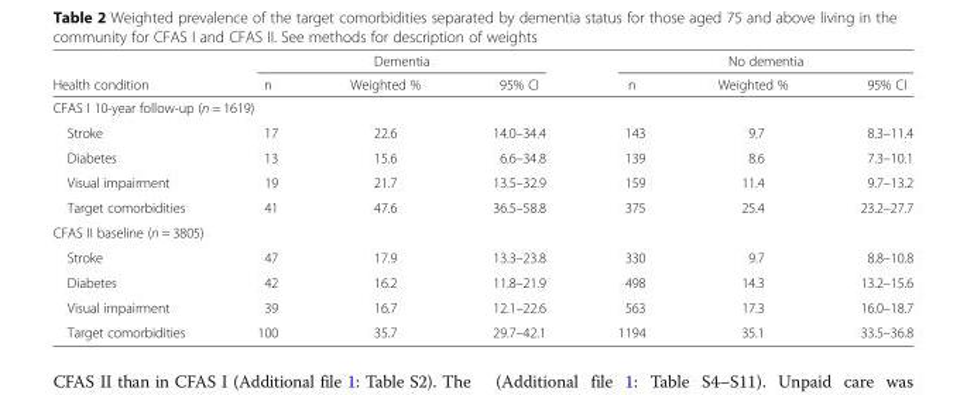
<table><thead><tr><td rowspan="2">Health condition</td><td colspan="3">Dementia</td><td colspan="3">No dementia</td></tr><tr><td>n</td><td>Weighted %</td><td>95% CI</td><td>n</td><td>Weighted %</td><td>95% CI</td></tr></thead><tbody><tr><td colspan="7">CFAS I 10-year follow-up (n = 1619)</td></tr><tr><td>Stroke</td><td>17</td><td>22.6</td><td>14.0–34.4</td><td>143</td><td>9.7</td><td>8.3–11.4</td></tr><tr><td>Diabetes</td><td>13</td><td>15.6</td><td>6.6–34.8</td><td>139</td><td>8.6</td><td>7.3–10.1</td></tr><tr><td>Visual impairment</td><td>19</td><td>21.7</td><td>13.5–32.9</td><td>159</td><td>11.4</td><td>9.7–13.2</td></tr><tr><td>Target comorbidities</td><td>41</td><td>47.6</td><td>36.5–58.8</td><td>375</td><td>25.4</td><td>23.2–27.7</td></tr><tr><td colspan="7">CFAS II baseline (n = 3805)</td></tr><tr><td>Stroke</td><td>47</td><td>17.9</td><td>13.3–23.8</td><td>330</td><td>9.7</td><td>8.8–10.8</td></tr><tr><td>Diabetes</td><td>42</td><td>16.2</td><td>11.8–21.9</td><td>498</td><td>14.3</td><td>13.2–15.6</td></tr><tr><td>Visual impairment</td><td>39</td><td>16.7</td><td>12.1–22.6</td><td>563</td><td>17.3</td><td>16.0–18.7</td></tr><tr><td>Target comorbidities</td><td>100</td><td>35.7</td><td>29.7–42.1</td><td>1194</td><td>35.1</td><td>33.5–36.8</td></tr></tbody></table>